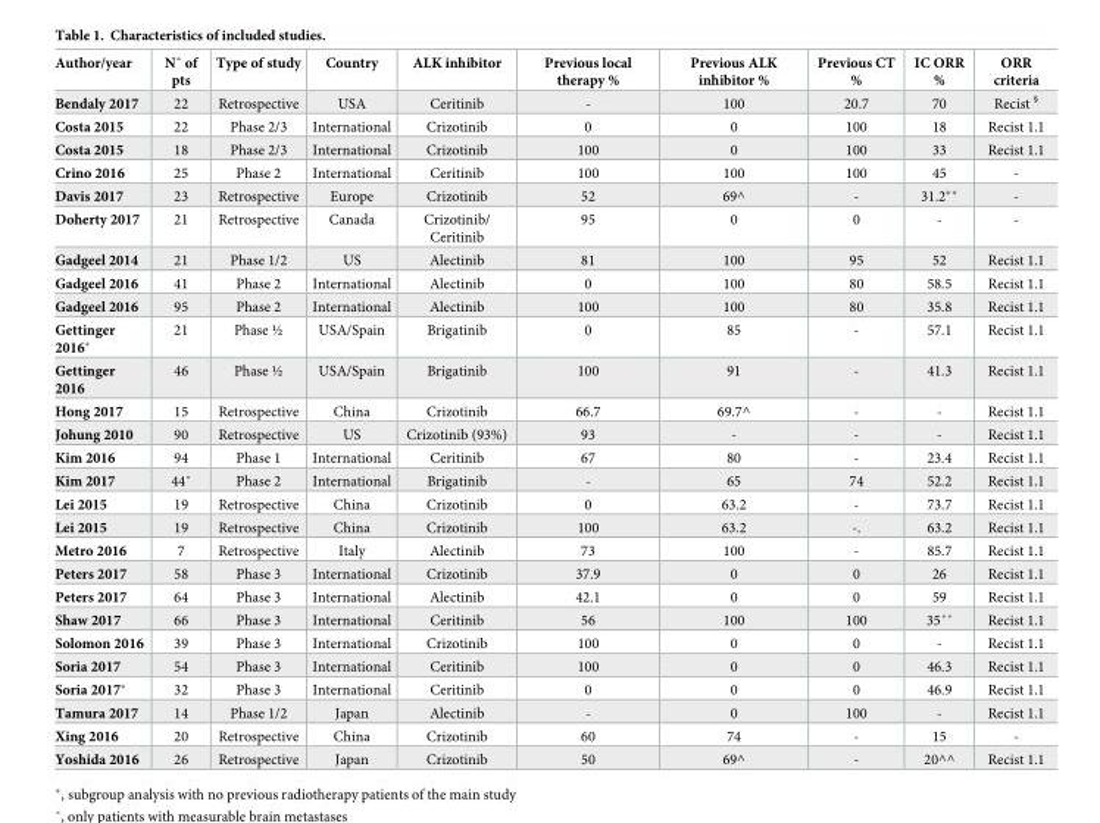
<table><thead><tr><td>Author/year</td><td>N˚ of pts</td><td>Type of study</td><td>Country</td><td>ALK inhibitor</td><td>Previous local therapy %</td><td>Previous ALK inhibitor %</td><td>Previous CT %</td><td>IC ORR %</td><td>ORR criteria</td></tr></thead><tbody><tr><td>Bendaly 2017</td><td>22</td><td>Retrospective</td><td>USA</td><td>Ceritinib</td><td>-</td><td>100</td><td>20.7</td><td>70</td><td>Recist <sup>§</sup></td></tr><tr><td>Costa 2015</td><td>22</td><td>Phase 2/3</td><td>International</td><td>Crizotinib</td><td>0</td><td>0</td><td>100</td><td>18</td><td>Recist 1.1</td></tr><tr><td>Costa 2015</td><td>18</td><td>Phase 2/3</td><td>International</td><td>Crizotinib</td><td>100</td><td>0</td><td>100</td><td>33</td><td>Recist 1.1</td></tr><tr><td>Crino 2016</td><td>25</td><td>Phase 2</td><td>International</td><td>Ceritinib</td><td>100</td><td>100</td><td>100</td><td>45</td><td>-</td></tr><tr><td>Davis 2017</td><td>23</td><td>Retrospective</td><td>Europe</td><td>Crizotinib</td><td>52</td><td>69^</td><td>-</td><td>31.2**</td><td>-</td></tr><tr><td>Doherty 2017</td><td>21</td><td>Retrospective</td><td>Canada</td><td>Crizotinib/ Ceritinib</td><td>95</td><td>0</td><td>0</td><td>-</td><td>-</td></tr><tr><td>Gadgeel 2014</td><td>21</td><td>Phase 1/2</td><td>US</td><td>Alectinib</td><td>81</td><td>100</td><td>95</td><td>52</td><td>Recist 1.1</td></tr><tr><td>Gadgeel 2016</td><td>41</td><td>Phase 2</td><td>International</td><td>Alectinib</td><td>0</td><td>100</td><td>80</td><td>58.5</td><td>Recist 1.1</td></tr><tr><td>Gadgeel 2016</td><td>95</td><td>Phase 2</td><td>International</td><td>Alectinib</td><td>100</td><td>100</td><td>80</td><td>35.8</td><td>Recist 1.1</td></tr><tr><td>Gettinger 2016*</td><td>21</td><td>Phase ½</td><td>USA/Spain</td><td>Brigatinib</td><td>0</td><td>85</td><td>-</td><td>57.1</td><td>Recist 1.1</td></tr><tr><td>Gettinger 2016</td><td>46</td><td>Phase ½</td><td>USA/Spain</td><td>Brigatinib</td><td>100</td><td>91</td><td>-</td><td>41.3</td><td>Recist 1.1</td></tr><tr><td>Hong 2017</td><td>15</td><td>Retrospective</td><td>China</td><td>Crizotinib</td><td>66.7</td><td>69.7^</td><td>-</td><td>-</td><td>Recist 1.1</td></tr><tr><td>Johung 2010</td><td>90</td><td>Retrospective</td><td>US</td><td>Crizotinib (93%)</td><td>93</td><td>-</td><td>-</td><td>-</td><td>Recist 1.1</td></tr><tr><td>Kim 2016</td><td>94</td><td>Phase 1</td><td>International</td><td>Ceritinib</td><td>67</td><td>80</td><td>-</td><td>23.4</td><td>Recist 1.1</td></tr><tr><td>Kim 2017</td><td>44˚</td><td>Phase 2</td><td>International</td><td>Brigatinib</td><td>-</td><td>65</td><td>74</td><td>52.2</td><td>Recist 1.1</td></tr><tr><td>Lei 2015</td><td>19</td><td>Retrospective</td><td>China</td><td>Crizotinib</td><td>0</td><td>63.2</td><td>-</td><td>73.7</td><td>Recist 1.1</td></tr><tr><td>Lei 2015</td><td>19</td><td>Retrospective</td><td>China</td><td>Crizotinib</td><td>100</td><td>63.2</td><td>-.</td><td>63.2</td><td>Recist 1.1</td></tr><tr><td>Metro 2016</td><td>7</td><td>Retrospective</td><td>Italy</td><td>Alectinib</td><td>73</td><td>100</td><td>-</td><td>85.7</td><td>Recist 1.1</td></tr><tr><td>Peters 2017</td><td>58</td><td>Phase 3</td><td>International</td><td>Crizotinib</td><td>37.9</td><td>0</td><td>0</td><td>26</td><td>Recist 1.1</td></tr><tr><td>Peters 2017</td><td>64</td><td>Phase 3</td><td>International</td><td>Alectinib</td><td>42.1</td><td>0</td><td>0</td><td>59</td><td>Recist 1.1</td></tr><tr><td>Shaw 2017</td><td>66</td><td>Phase 3</td><td>International</td><td>Ceritinib</td><td>56</td><td>100</td><td>100</td><td>35˚˚</td><td>Recist 1.1</td></tr><tr><td>Solomon 2016</td><td>39</td><td>Phase 3</td><td>International</td><td>Crizotinib</td><td>100</td><td>0</td><td>0</td><td>-</td><td>Recist 1.1</td></tr><tr><td>Soria 2017</td><td>54</td><td>Phase 3</td><td>International</td><td>Ceritinib</td><td>100</td><td>0</td><td>0</td><td>46.3</td><td>Recist 1.1</td></tr><tr><td>Soria 2017*</td><td>32</td><td>Phase 3</td><td>International</td><td>Ceritinib</td><td>0</td><td>0</td><td>0</td><td>46.9</td><td>Recist 1.1</td></tr><tr><td>Tamura 2017</td><td>14</td><td>Phase 1/2</td><td>Japan</td><td>Alectinib</td><td>-</td><td>0</td><td>100</td><td>-</td><td>Recist 1.1</td></tr><tr><td>Xing 2016</td><td>20</td><td>Retrospective</td><td>China</td><td>Crizotinib</td><td>60</td><td>74</td><td>-</td><td>15</td><td>-</td></tr><tr><td>Yoshida 2016</td><td>26</td><td>Retrospective</td><td>Japan</td><td>Crizotinib</td><td>50</td><td>69^</td><td>-</td><td>20^^</td><td>Recist 1.1</td></tr></tbody></table>